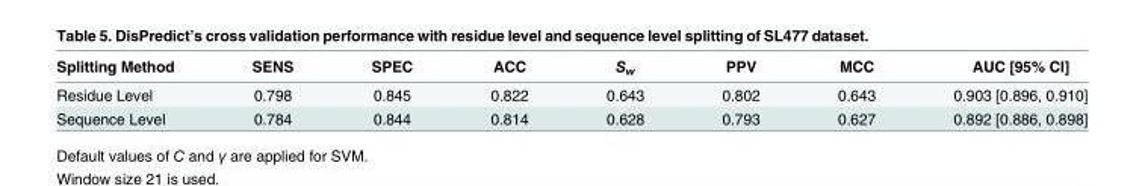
<table><thead><tr><td>Splitting Method</td><td>SENS</td><td>SPEC</td><td>ACC</td><td>S<sub>w</sub></td><td>PPV</td><td>MCC</td><td>AUC [95% CI]</td></tr></thead><tbody><tr><td>Residue Level</td><td>0.798</td><td>0.845</td><td>0.822</td><td>0.643</td><td>0.802</td><td>0.643</td><td>0.903 [0.896, 0.910]</td></tr><tr><td>Sequence Level</td><td>0.784</td><td>0.844</td><td>0.814</td><td>0.628</td><td>0.793</td><td>0.627</td><td>0.892 [0.886, 0.898]</td></tr></tbody></table>